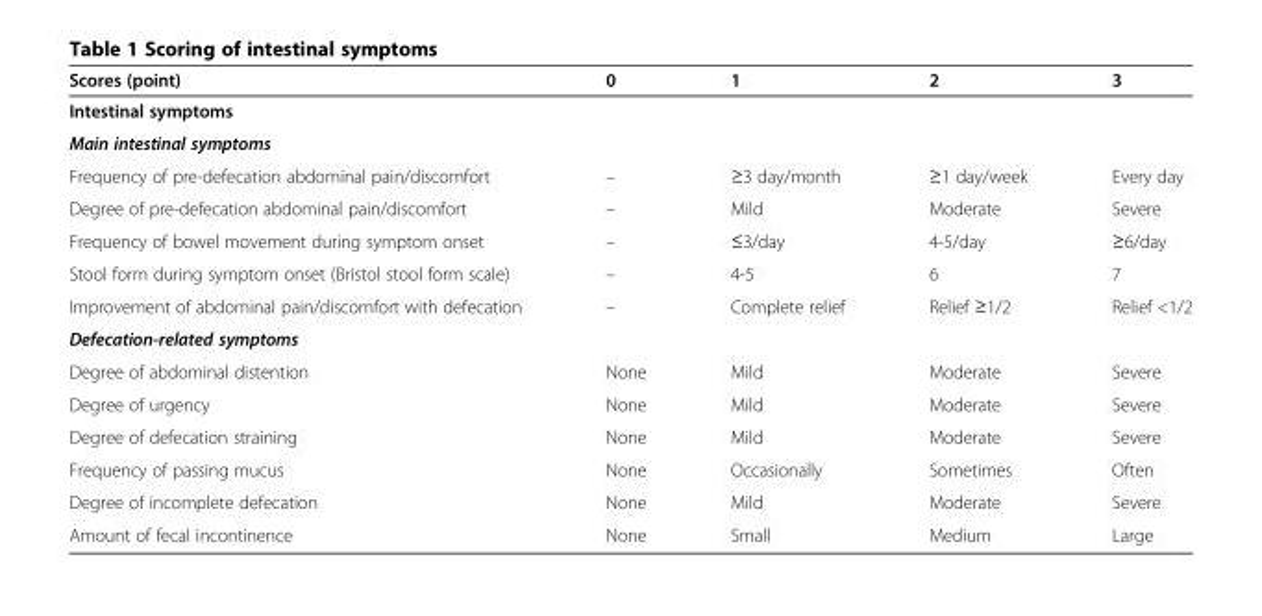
<table><thead><tr><td>Scores (point)</td><td>0</td><td>1</td><td>2</td><td>3</td></tr></thead><tbody><tr><td colspan="5">Intestinal symptoms</td></tr><tr><td colspan="5">Main intestinal symptoms</td></tr><tr><td>Frequency of pre-defecation abdominal pain/discomfort</td><td>–</td><td>≥3 day/month</td><td>≥1 day/week</td><td>Every day</td></tr><tr><td>Degree of pre-defecation abdominal pain/discomfort</td><td>–</td><td>Mild</td><td>Moderate</td><td>Severe</td></tr><tr><td>Frequency of bowel movement during symptom onset</td><td>–</td><td>≤3/day</td><td>4-5/day</td><td>≥6/day</td></tr><tr><td>Stool form during symptom onset (Bristol stool form scale)</td><td>–</td><td>4-5</td><td>6</td><td>7</td></tr><tr><td>Improvement of abdominal pain/discomfort with defecation</td><td>–</td><td>Complete relief</td><td>Relief ≥1/2</td><td>Relief &lt;1/2</td></tr><tr><td colspan="5">Defecation-related symptoms</td></tr><tr><td>Degree of abdominal distention</td><td>None</td><td>Mild</td><td>Moderate</td><td>Severe</td></tr><tr><td>Degree of urgency</td><td>None</td><td>Mild</td><td>Moderate</td><td>Severe</td></tr><tr><td>Degree of defecation straining</td><td>None</td><td>Mild</td><td>Moderate</td><td>Severe</td></tr><tr><td>Frequency of passing mucus</td><td>None</td><td>Occasionally</td><td>Sometimes</td><td>Often</td></tr><tr><td>Degree of incomplete defecation</td><td>None</td><td>Mild</td><td>Moderate</td><td>Severe</td></tr><tr><td>Amount of fecal incontinence</td><td>None</td><td>Small</td><td>Medium</td><td>Large</td></tr></tbody></table>